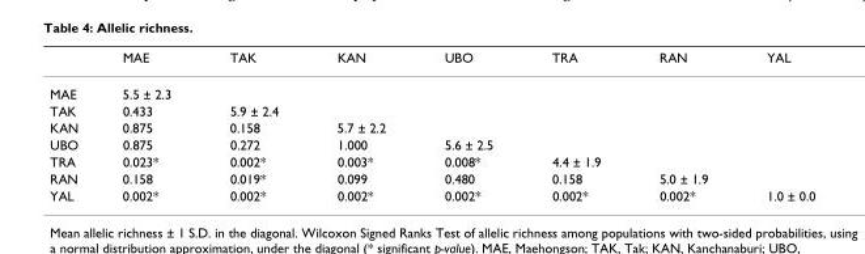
<table><thead><tr><td></td><td>MAE</td><td>TAK</td><td>KAN</td><td>UBO</td><td>TRA</td><td>RAN</td><td>YAL</td></tr></thead><tbody><tr><td>MAE</td><td>5.5 ± 2.3</td><td></td><td></td><td></td><td></td><td></td><td></td></tr><tr><td>TAK</td><td>0.433</td><td>5.9 ± 2.4</td><td></td><td></td><td></td><td></td><td></td></tr><tr><td>KAN</td><td>0.875</td><td>0.158</td><td>5.7 ± 2.2</td><td></td><td></td><td></td><td></td></tr><tr><td>UBO</td><td>0.875</td><td>0.272</td><td>1.000</td><td>5.6 ± 2.5</td><td></td><td></td><td></td></tr><tr><td>TRA</td><td>0.023*</td><td>0.002*</td><td>0.003*</td><td>0.008*</td><td>4.4 ± 1.9</td><td></td><td></td></tr><tr><td>RAN</td><td>0.158</td><td>0.019*</td><td>0.099</td><td>0.480</td><td>0.158</td><td>5.0 ± 1.9</td><td></td></tr><tr><td>YAL</td><td>0.002*</td><td>0.002*</td><td>0.002*</td><td>0.002*</td><td>0.002*</td><td>0.002*</td><td>1.0 ± 0.0</td></tr></tbody></table>